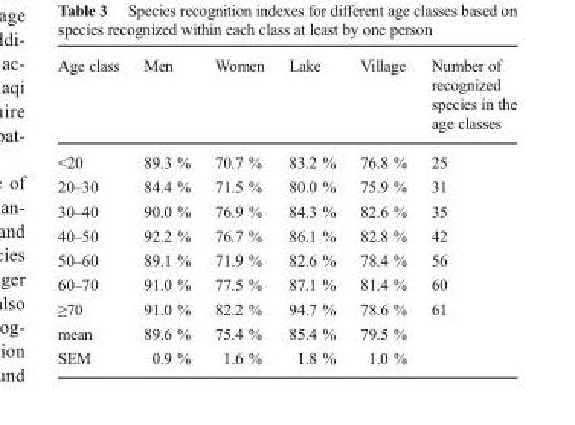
<table><thead><tr><td>Age class</td><td>Men</td><td>Women</td><td>Lake</td><td>Village</td><td>Number of recognized species in the age classes</td></tr></thead><tbody><tr><td>&lt;20</td><td>89.3 %</td><td>70.7 %</td><td>83.2 %</td><td>76.8 %</td><td>25</td></tr><tr><td>20–30</td><td>84.4 %</td><td>71.5 %</td><td>80.0 %</td><td>75.9 %</td><td>31</td></tr><tr><td>30–40</td><td>90.0 %</td><td>76.9 %</td><td>84.3 %</td><td>82.6 %</td><td>35</td></tr><tr><td>40–50</td><td>92.2 %</td><td>76.7 %</td><td>86.1 %</td><td>82.8 %</td><td>42</td></tr><tr><td>50–60</td><td>89.1 %</td><td>71.9 %</td><td>82.6 %</td><td>78.4 %</td><td>56</td></tr><tr><td>60–70</td><td>91.0 %</td><td>77.5 %</td><td>87.1 %</td><td>81.4 %</td><td>60</td></tr><tr><td>≥70</td><td>91.0 %</td><td>82.2 %</td><td>94.7 %</td><td>78.6 %</td><td>61</td></tr><tr><td>mean</td><td>89.6 %</td><td>75.4 %</td><td>85.4 %</td><td>79.5 %</td><td></td></tr><tr><td>SEM</td><td>0.9 %</td><td>1.6 %</td><td>1.8 %</td><td>1.0 %</td><td></td></tr></tbody></table>